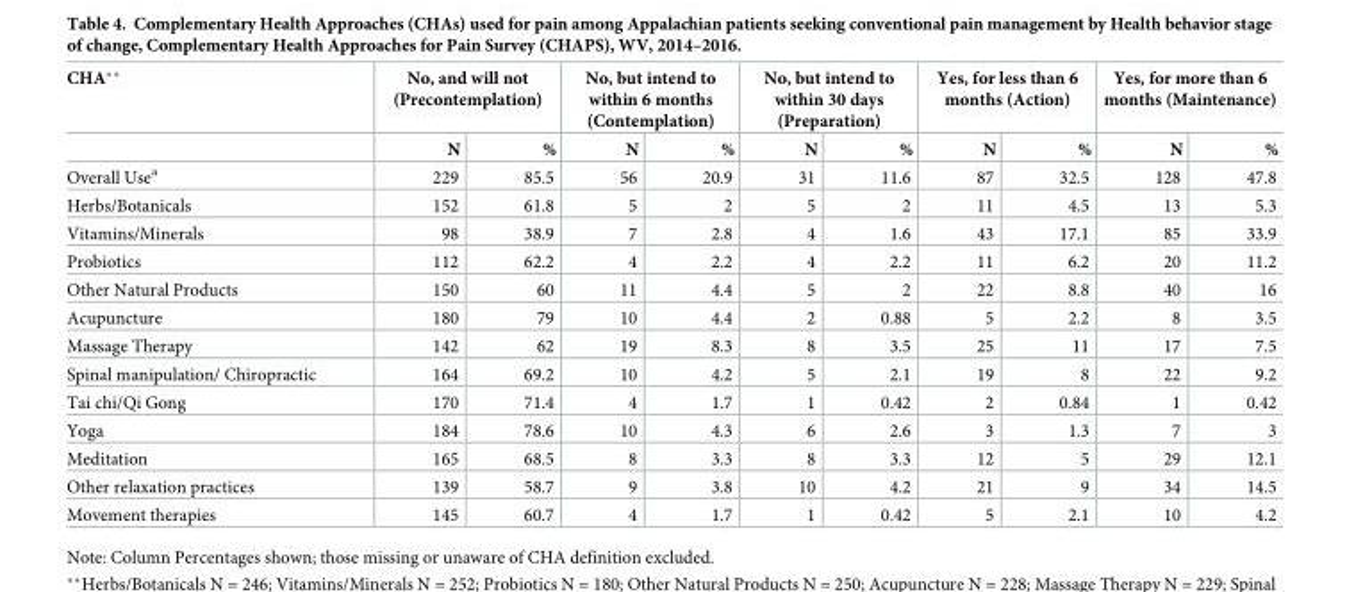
<table><thead><tr><td rowspan="2">CHA**</td><td colspan="2">No, and will not (Precontemplation)</td><td colspan="2">No, but intend to within 6 months (Contemplation)</td><td colspan="2">No, but intend to within 30 days (Preparation)</td><td colspan="2">Yes, for less than 6 months (Action)</td><td colspan="2">Yes, for more than 6 months (Maintenance)</td></tr><tr><td>N</td><td>%</td><td>N</td><td>%</td><td>N</td><td>%</td><td>N</td><td>%</td><td>N</td><td>%</td></tr></thead><tbody><tr><td>Overall Use<sup>a</sup></td><td>229</td><td>85.5</td><td>56</td><td>20.9</td><td>31</td><td>11.6</td><td>87</td><td>32.5</td><td>128</td><td>47.8</td></tr><tr><td>Herbs/Botanicals</td><td>152</td><td>61.8</td><td>5</td><td>2</td><td>5</td><td>2</td><td>11</td><td>4.5</td><td>13</td><td>5.3</td></tr><tr><td>Vitamins/Minerals</td><td>98</td><td>38.9</td><td>7</td><td>2.8</td><td>4</td><td>1.6</td><td>43</td><td>17.1</td><td>85</td><td>33.9</td></tr><tr><td>Probiotics</td><td>112</td><td>62.2</td><td>4</td><td>2.2</td><td>4</td><td>2.2</td><td>11</td><td>6.2</td><td>20</td><td>11.2</td></tr><tr><td>Other Natural Products</td><td>150</td><td>60</td><td>11</td><td>4.4</td><td>5</td><td>2</td><td>22</td><td>8.8</td><td>40</td><td>16</td></tr><tr><td>Acupuncture</td><td>180</td><td>79</td><td>10</td><td>4.4</td><td>2</td><td>0.88</td><td>5</td><td>2.2</td><td>8</td><td>3.5</td></tr><tr><td>Massage Therapy</td><td>142</td><td>62</td><td>19</td><td>8.3</td><td>8</td><td>3.5</td><td>25</td><td>11</td><td>17</td><td>7.5</td></tr><tr><td>Spinal manipulation/ Chiropractic</td><td>164</td><td>69.2</td><td>10</td><td>4.2</td><td>5</td><td>2.1</td><td>19</td><td>8</td><td>22</td><td>9.2</td></tr><tr><td>Tai chi/Qi Gong</td><td>170</td><td>71.4</td><td>4</td><td>1.7</td><td>1</td><td>0.42</td><td>2</td><td>0.84</td><td>1</td><td>0.42</td></tr><tr><td>Yoga</td><td>184</td><td>78.6</td><td>10</td><td>4.3</td><td>6</td><td>2.6</td><td>3</td><td>1.3</td><td>7</td><td>3</td></tr><tr><td>Meditation</td><td>165</td><td>68.5</td><td>8</td><td>3.3</td><td>8</td><td>3.3</td><td>12</td><td>5</td><td>29</td><td>12.1</td></tr><tr><td>Other relaxation practices</td><td>139</td><td>58.7</td><td>9</td><td>3.8</td><td>10</td><td>4.2</td><td>21</td><td>9</td><td>34</td><td>14.5</td></tr><tr><td>Movement therapies</td><td>145</td><td>60.7</td><td>4</td><td>1.7</td><td>1</td><td>0.42</td><td>5</td><td>2.1</td><td>10</td><td>4.2</td></tr></tbody></table>